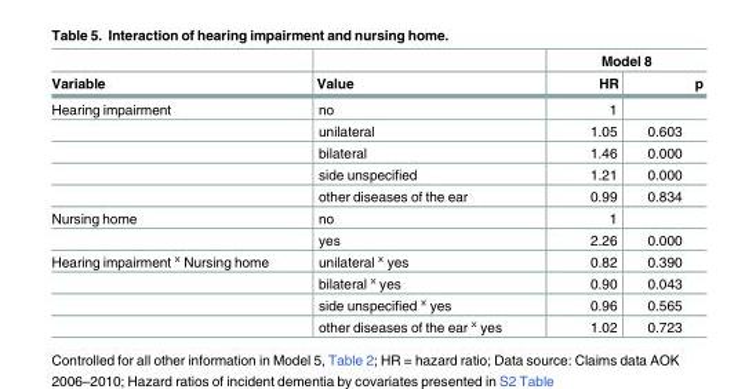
<table><thead><tr><td rowspan="2">Variable</td><td rowspan="2">Value</td><td colspan="2">Model 8</td></tr><tr><td>HR</td><td>p</td></tr></thead><tbody><tr><td rowspan="5">Hearing impairment</td><td>no</td><td>1</td><td></td></tr><tr><td>unilateral</td><td>1.05</td><td>0.603</td></tr><tr><td>bilateral</td><td>1.46</td><td>0.000</td></tr><tr><td>side unspecified</td><td>1.21</td><td>0.000</td></tr><tr><td>other diseases of the ear</td><td>0.99</td><td>0.834</td></tr><tr><td rowspan="2">Nursing home</td><td>no</td><td>1</td><td></td></tr><tr><td>yes</td><td>2.26</td><td>0.000</td></tr><tr><td rowspan="4">Hearing impairment ˣ Nursing home</td><td>unilateral ˣ yes</td><td>0.82</td><td>0.390</td></tr><tr><td>bilateral ˣ yes</td><td>0.90</td><td>0.043</td></tr><tr><td>side unspecified ˣ yes</td><td>0.96</td><td>0.565</td></tr><tr><td>other diseases of the ear ˣ yes</td><td>1.02</td><td>0.723</td></tr></tbody></table>